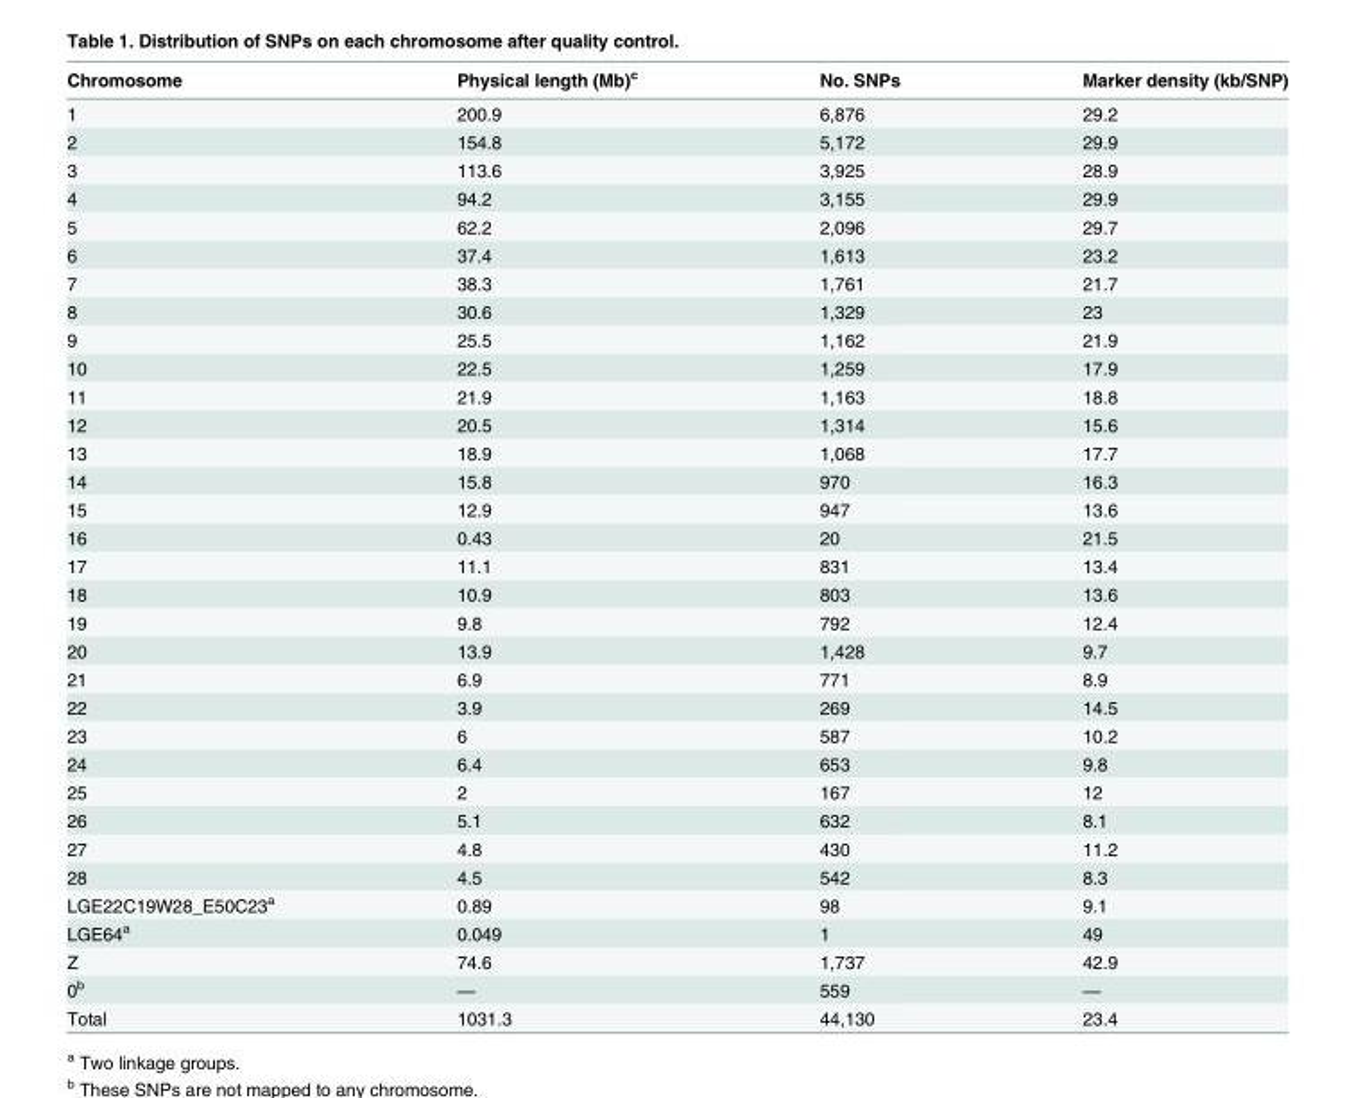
<table><thead><tr><td>Chromosome</td><td>Physical length (Mb)<sup>c</sup></td><td>No. SNPs</td><td>Marker density (kb/SNP)</td></tr></thead><tbody><tr><td>1</td><td>200.9</td><td>6,876</td><td>29.2</td></tr><tr><td>2</td><td>154.8</td><td>5,172</td><td>29.9</td></tr><tr><td>3</td><td>113.6</td><td>3,925</td><td>28.9</td></tr><tr><td>4</td><td>94.2</td><td>3,155</td><td>29.9</td></tr><tr><td>5</td><td>62.2</td><td>2,096</td><td>29.7</td></tr><tr><td>6</td><td>37.4</td><td>1,613</td><td>23.2</td></tr><tr><td>7</td><td>38.3</td><td>1,761</td><td>21.7</td></tr><tr><td>8</td><td>30.6</td><td>1,329</td><td>23</td></tr><tr><td>9</td><td>25.5</td><td>1,162</td><td>21.9</td></tr><tr><td>10</td><td>22.5</td><td>1,259</td><td>17.9</td></tr><tr><td>11</td><td>21.9</td><td>1,163</td><td>18.8</td></tr><tr><td>12</td><td>20.5</td><td>1,314</td><td>15.6</td></tr><tr><td>13</td><td>18.9</td><td>1,068</td><td>17.7</td></tr><tr><td>14</td><td>15.8</td><td>970</td><td>16.3</td></tr><tr><td>15</td><td>12.9</td><td>947</td><td>13.6</td></tr><tr><td>16</td><td>0.43</td><td>20</td><td>21.5</td></tr><tr><td>17</td><td>11.1</td><td>831</td><td>13.4</td></tr><tr><td>18</td><td>10.9</td><td>803</td><td>13.6</td></tr><tr><td>19</td><td>9.8</td><td>792</td><td>12.4</td></tr><tr><td>20</td><td>13.9</td><td>1,428</td><td>9.7</td></tr><tr><td>21</td><td>6.9</td><td>771</td><td>8.9</td></tr><tr><td>22</td><td>3.9</td><td>269</td><td>14.5</td></tr><tr><td>23</td><td>6</td><td>587</td><td>10.2</td></tr><tr><td>24</td><td>6.4</td><td>653</td><td>9.8</td></tr><tr><td>25</td><td>2</td><td>167</td><td>12</td></tr><tr><td>26</td><td>5.1</td><td>632</td><td>8.1</td></tr><tr><td>27</td><td>4.8</td><td>430</td><td>11.2</td></tr><tr><td>28</td><td>4.5</td><td>542</td><td>8.3</td></tr><tr><td>LGE22C19W28_E50C23<sup>a</sup></td><td>0.89</td><td>98</td><td>9.1</td></tr><tr><td>LGE64<sup>a</sup></td><td>0.049</td><td>1</td><td>49</td></tr><tr><td>Z</td><td>74.6</td><td>1,737</td><td>42.9</td></tr><tr><td>0<sup>b</sup></td><td>—</td><td>559</td><td>—</td></tr><tr><td>Total</td><td>1031.3</td><td>44,130</td><td>23.4</td></tr></tbody></table>